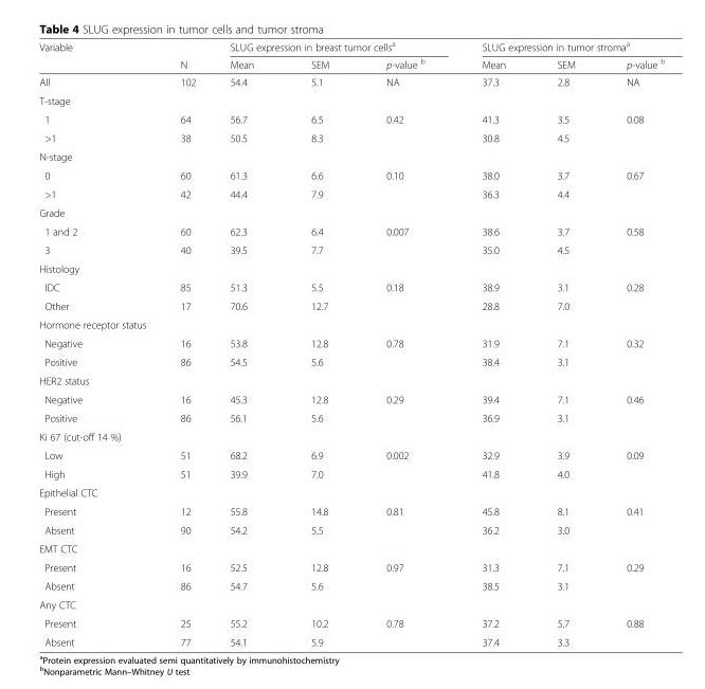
<table><thead><tr><td rowspan="2">Variable</td><td rowspan="2">N</td><td colspan="3">SLUG expression in breast tumor cells<sup>a</sup></td><td colspan="3">SLUG expression in tumor stroma<sup>a</sup></td></tr><tr><td>Mean</td><td>SEM</td><td>p-value <sup>b</sup></td><td>Mean</td><td>SEM</td><td>p-value <sup>b</sup></td></tr></thead><tbody><tr><td>All</td><td>102</td><td>54.4</td><td>5.1</td><td>NA</td><td>37.3</td><td>2.8</td><td>NA</td></tr><tr><td colspan="8">T-stage</td></tr><tr><td>1</td><td>64</td><td>56.7</td><td>6.5</td><td>0.42</td><td>41.3</td><td>3.5</td><td>0.08</td></tr><tr><td>&gt;1</td><td>38</td><td>50.5</td><td>8.3</td><td></td><td>30.8</td><td>4.5</td><td></td></tr><tr><td colspan="8">N-stage</td></tr><tr><td>0</td><td>60</td><td>61.3</td><td>6.6</td><td>0.10</td><td>38.0</td><td>3.7</td><td>0.67</td></tr><tr><td>&gt;1</td><td>42</td><td>44.4</td><td>7.9</td><td></td><td>36.3</td><td>4.4</td><td></td></tr><tr><td colspan="8">Grade</td></tr><tr><td>1 and 2</td><td>60</td><td>62.3</td><td>6.4</td><td>0.007</td><td>38.6</td><td>3.7</td><td>0.58</td></tr><tr><td>3</td><td>40</td><td>39.5</td><td>7.7</td><td></td><td>35.0</td><td>4.5</td><td></td></tr><tr><td colspan="8">Histology</td></tr><tr><td>IDC</td><td>85</td><td>51.3</td><td>5.5</td><td>0.18</td><td>38.9</td><td>3.1</td><td>0.28</td></tr><tr><td>Other</td><td>17</td><td>70.6</td><td>12.7</td><td></td><td>28.8</td><td>7.0</td><td></td></tr><tr><td colspan="8">Hormone receptor status</td></tr><tr><td>Negative</td><td>16</td><td>53.8</td><td>12.8</td><td>0.78</td><td>31.9</td><td>7.1</td><td>0.32</td></tr><tr><td>Positive</td><td>86</td><td>54.5</td><td>5.6</td><td></td><td>38.4</td><td>3.1</td><td></td></tr><tr><td colspan="8">HER2 status</td></tr><tr><td>Negative</td><td>16</td><td>45.3</td><td>12.8</td><td>0.29</td><td>39.4</td><td>7.1</td><td>0.46</td></tr><tr><td>Positive</td><td>86</td><td>56.1</td><td>5.6</td><td></td><td>36.9</td><td>3.1</td><td></td></tr><tr><td colspan="8">Ki 67 (cut-off 14 %)</td></tr><tr><td>Low</td><td>51</td><td>68.2</td><td>6.9</td><td>0.002</td><td>32.9</td><td>3.9</td><td>0.09</td></tr><tr><td>High</td><td>51</td><td>39.9</td><td>7.0</td><td></td><td>41.8</td><td>4.0</td><td></td></tr><tr><td colspan="8">Epithelial CTC</td></tr><tr><td>Present</td><td>12</td><td>55.8</td><td>14.8</td><td>0.81</td><td>45.8</td><td>8.1</td><td>0.41</td></tr><tr><td>Absent</td><td>90</td><td>54.2</td><td>5.5</td><td></td><td>36.2</td><td>3.0</td><td></td></tr><tr><td colspan="8">EMT CTC</td></tr><tr><td>Present</td><td>16</td><td>52.5</td><td>12.8</td><td>0.97</td><td>31.3</td><td>7.1</td><td>0.29</td></tr><tr><td>Absent</td><td>86</td><td>54.7</td><td>5.6</td><td></td><td>38.5</td><td>3.1</td><td></td></tr><tr><td colspan="8">Any CTC</td></tr><tr><td>Present</td><td>25</td><td>55.2</td><td>10.2</td><td>0.78</td><td>37.2</td><td>5.7</td><td>0.88</td></tr><tr><td>Absent</td><td>77</td><td>54.1</td><td>5.9</td><td></td><td>37.4</td><td>3.3</td><td></td></tr></tbody></table>